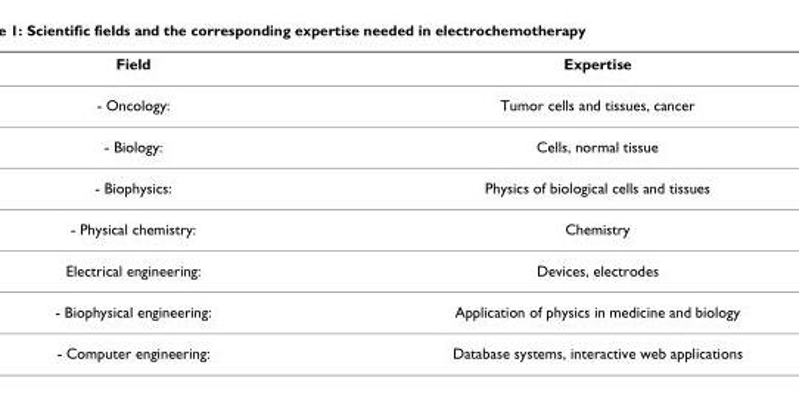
<table><thead><tr><td>Field</td><td>Expertise</td></tr></thead><tbody><tr><td>- Oncology:</td><td>Tumor cells and tissues, cancer</td></tr><tr><td>- Biology:</td><td>Cells, normal tissue</td></tr><tr><td>- Biophysics:</td><td>Physics of biological cells and tissues</td></tr><tr><td>- Physical chemistry:</td><td>Chemistry</td></tr><tr><td>Electrical engineering:</td><td>Devices, electrodes</td></tr><tr><td>- Biophysical engineering:</td><td>Application of physics in medicine and biology</td></tr><tr><td>- Computer engineering:</td><td>Database systems, interactive web applications</td></tr></tbody></table>